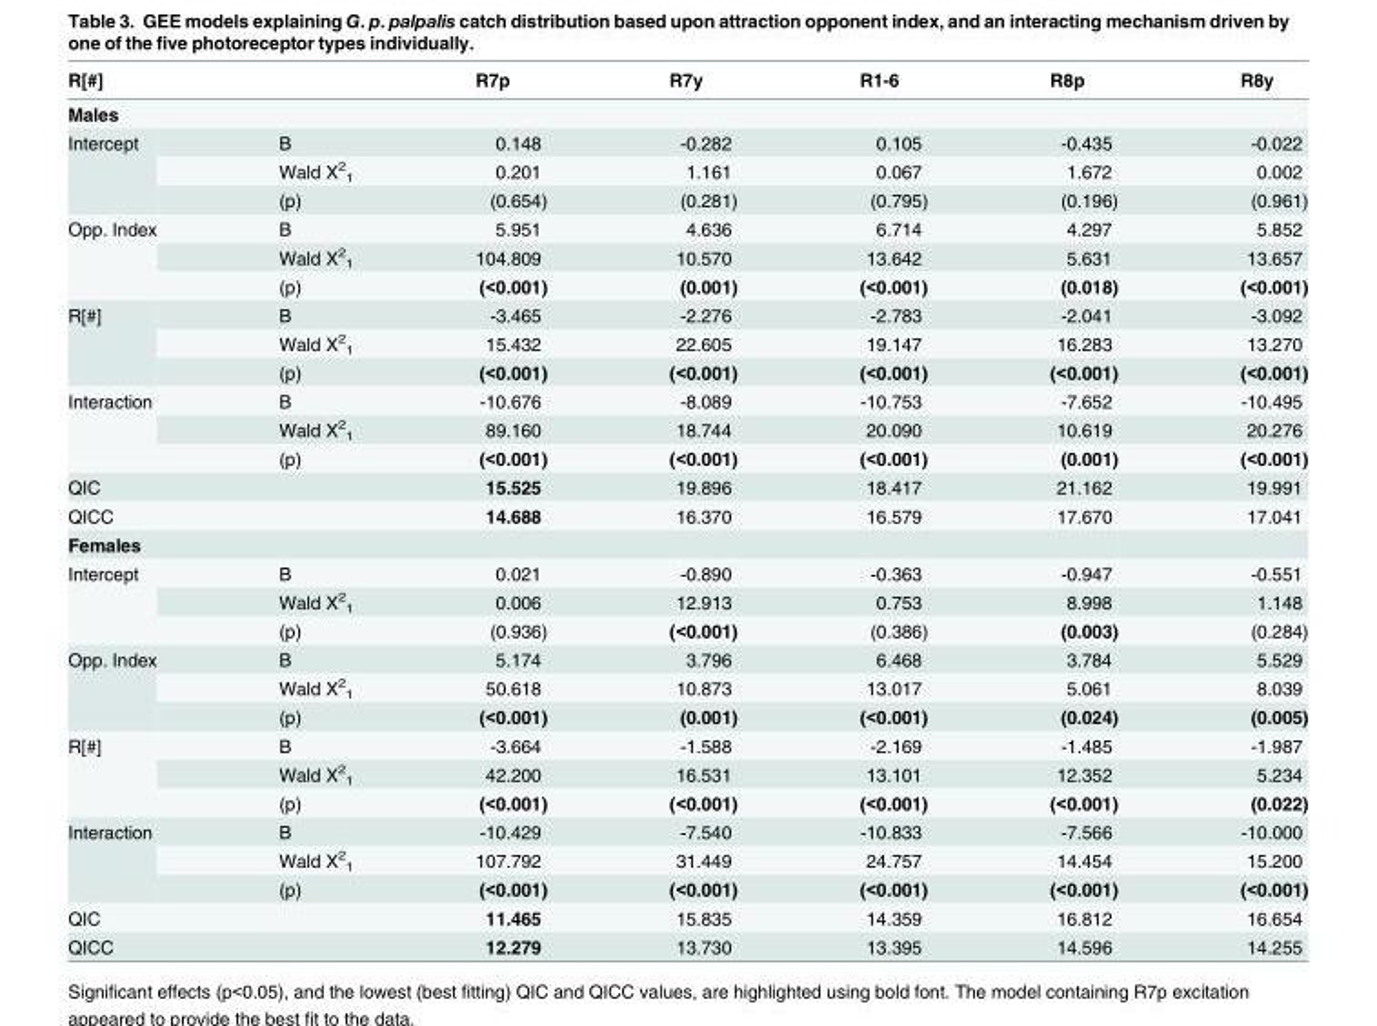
<table><thead><tr><td>R[#]</td><td></td><td>R7p</td><td>R7y</td><td>R1-6</td><td>R8p</td><td>R8y</td></tr></thead><tbody><tr><td colspan="7">Males</td></tr><tr><td rowspan="3">Intercept</td><td>B</td><td>0.148</td><td>-0.282</td><td>0.105</td><td>-0.435</td><td>-0.022</td></tr><tr><td>Wald X<sup>2</sup> <sub>1</sub></td><td>0.201</td><td>1.161</td><td>0.067</td><td>1.672</td><td>0.002</td></tr><tr><td>(p)</td><td>(0.654)</td><td>(0.281)</td><td>(0.795)</td><td>(0.196)</td><td>(0.961)</td></tr><tr><td rowspan="3">Opp. Index</td><td>B</td><td>5.951</td><td>4.636</td><td>6.714</td><td>4.297</td><td>5.852</td></tr><tr><td>Wald X<sup>2</sup> <sub>1</sub></td><td>104.809</td><td>10.570</td><td>13.642</td><td>5.631</td><td>13.657</td></tr><tr><td>(p)</td><td>(&lt;0.001)</td><td>(0.001)</td><td>(&lt;0.001)</td><td>(0.018)</td><td>(&lt;0.001)</td></tr><tr><td rowspan="3">R[#]</td><td>B</td><td>-3.465</td><td>-2.276</td><td>-2.783</td><td>-2.041</td><td>-3.092</td></tr><tr><td>Wald X<sup>2</sup> <sub>1</sub></td><td>15.432</td><td>22.605</td><td>19.147</td><td>16.283</td><td>13.270</td></tr><tr><td>(p)</td><td>(&lt;0.001)</td><td>(&lt;0.001)</td><td>(&lt;0.001)</td><td>(&lt;0.001)</td><td>(&lt;0.001)</td></tr><tr><td rowspan="3">Interaction</td><td>B</td><td>-10.676</td><td>-8.089</td><td>-10.753</td><td>-7.652</td><td>-10.495</td></tr><tr><td>Wald X<sup>2</sup> <sub>1</sub></td><td>89.160</td><td>18.744</td><td>20.090</td><td>10.619</td><td>20.276</td></tr><tr><td>(p)</td><td>(&lt;0.001)</td><td>(&lt;0.001)</td><td>(&lt;0.001)</td><td>(0.001)</td><td>(&lt;0.001)</td></tr><tr><td>QIC</td><td></td><td>15.525</td><td>19.896</td><td>18.417</td><td>21.162</td><td>19.991</td></tr><tr><td>QICC</td><td></td><td>14.688</td><td>16.370</td><td>16.579</td><td>17.670</td><td>17.041</td></tr><tr><td colspan="7">Females</td></tr><tr><td rowspan="3">Intercept</td><td>B</td><td>0.021</td><td>-0.890</td><td>-0.363</td><td>-0.947</td><td>-0.551</td></tr><tr><td>Wald X<sup>2</sup> <sub>1</sub></td><td>0.006</td><td>12.913</td><td>0.753</td><td>8.998</td><td>1.148</td></tr><tr><td>(p)</td><td>(0.936)</td><td>(&lt;0.001)</td><td>(0.386)</td><td>(0.003)</td><td>(0.284)</td></tr><tr><td rowspan="3">Opp. Index</td><td>B</td><td>5.174</td><td>3.796</td><td>6.468</td><td>3.784</td><td>5.529</td></tr><tr><td>Wald X<sup>2</sup> <sub>1</sub></td><td>50.618</td><td>10.873</td><td>13.017</td><td>5.061</td><td>8.039</td></tr><tr><td>(p)</td><td>(&lt;0.001)</td><td>(0.001)</td><td>(&lt;0.001)</td><td>(0.024)</td><td>(0.005)</td></tr><tr><td rowspan="3">R[#]</td><td>B</td><td>-3.664</td><td>-1.588</td><td>-2.169</td><td>-1.485</td><td>-1.987</td></tr><tr><td>Wald X<sup>2</sup> <sub>1</sub></td><td>42.200</td><td>16.531</td><td>13.101</td><td>12.352</td><td>5.234</td></tr><tr><td>(p)</td><td>(&lt;0.001)</td><td>(&lt;0.001)</td><td>(&lt;0.001)</td><td>(&lt;0.001)</td><td>(0.022)</td></tr><tr><td rowspan="3">Interaction</td><td>B</td><td>-10.429</td><td>-7.540</td><td>-10.833</td><td>-7.566</td><td>-10.000</td></tr><tr><td>Wald X<sup>2</sup> <sub>1</sub></td><td>107.792</td><td>31.449</td><td>24.757</td><td>14.454</td><td>15.200</td></tr><tr><td>(p)</td><td>(&lt;0.001)</td><td>(&lt;0.001)</td><td>(&lt;0.001)</td><td>(&lt;0.001)</td><td>(&lt;0.001)</td></tr><tr><td>QIC</td><td></td><td>11.465</td><td>15.835</td><td>14.359</td><td>16.812</td><td>16.654</td></tr><tr><td>QICC</td><td></td><td>12.279</td><td>13.730</td><td>13.395</td><td>14.596</td><td>14.255</td></tr></tbody></table>